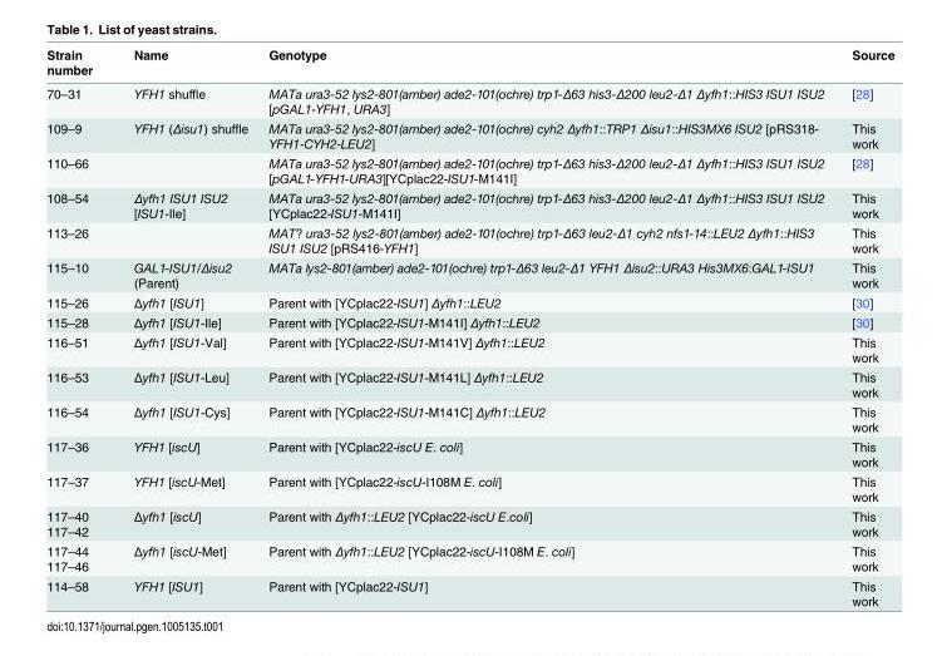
<table><thead><tr><td>Strain number</td><td>Name</td><td>Genotype</td><td>Source</td></tr></thead><tbody><tr><td>70–31</td><td>YFH1 shuffle</td><td>MATa ura3-52 lys2-801(amber) ade2-101(ochre) trp1-Δ63 his3-Δ200 leu2-Δ1 Δyfh1::HIS3 ISU1 ISU2 [pGAL1-YFH1, URA3]</td><td>[28]</td></tr><tr><td>109–9</td><td>YFH1 (Δisu1) shuffle</td><td>MATa ura3-52 lys2-801(amber) ade2-101(ochre) cyh2 Δyfh1::TRP1 Δisu1::HIS3MX6 ISU2 [pRS318- YFH1-CYH2-LEU2]</td><td>This work</td></tr><tr><td>110–66</td><td></td><td>MATa ura3-52 lys2-801(amber) ade2-101(ochre) trp1-Δ63 his3-Δ200 leu2-Δ1 Δyfh1::HIS3 ISU1 ISU2 [pGAL1-YFH1-URA3][YCplac22-ISU1-M141I]</td><td>[28]</td></tr><tr><td>108–54</td><td>Δyfh1 ISU1 ISU2 [ISU1-Ile]</td><td>MATa ura3-52 lys2-801(amber) ade2-101(ochre) trp1-Δ63 his3-Δ200 leu2-Δ1 Δyfh1::HIS3 ISU1 ISU2 [YCplac22-ISU1-M141I]</td><td>This work</td></tr><tr><td>113–26</td><td></td><td>MAT? ura3-52 lys2-801(amber) ade2-101(ochre) trp1-Δ63 leu2-Δ1 cyh2 nfs1-14::LEU2 Δyfh1::HIS3 ISU1 ISU2 [pRS416-YFH1]</td><td>This work</td></tr><tr><td>115–10</td><td>GAL1-ISU1/Δisu2 (Parent)</td><td>MATa lys2-801(amber) ade2-101(ochre) trp1-Δ63 leu2-Δ1 YFH1 Δisu2::URA3 His3MX6:GAL1-ISU1</td><td>This work</td></tr><tr><td>115–26</td><td>Δyfh1 [ISU1]</td><td>Parent with [YCplac22-ISU1] Δyfh1::LEU2</td><td>[30]</td></tr><tr><td>115–28</td><td>Δyfh1 [ISU1-Ile]</td><td>Parent with [YCplac22-ISU1-M141I] Δyfh1::LEU2</td><td>[30]</td></tr><tr><td>116–51</td><td>Δyfh1 [ISU1-Val]</td><td>Parent with [YCplac22-ISU1-M141V] Δyfh1::LEU2</td><td>This work</td></tr><tr><td>116–53</td><td>Δyfh1 [ISU1-Leu]</td><td>Parent with [YCplac22-ISU1-M141L] Δyfh1::LEU2</td><td>This work</td></tr><tr><td>116–54</td><td>Δyfh1 [ISU1-Cys]</td><td>Parent with [YCplac22-ISU1-M141C] Δyfh1::LEU2</td><td>This work</td></tr><tr><td>117–36</td><td>YFH1 [iscU]</td><td>Parent with [YCplac22-iscU E. coli]</td><td>This work</td></tr><tr><td>117–37</td><td>YFH1 [iscU-Met]</td><td>Parent with [YCplac22-iscU-I108M E. coli]</td><td>This work</td></tr><tr><td>117–40 117–42</td><td>Δyfh1 [iscU]</td><td>Parent with Δyfh1::LEU2 [YCplac22-iscU E.coli]</td><td>This work</td></tr><tr><td>117–44 117–46</td><td>Δyfh1 [iscU-Met]</td><td>Parent with Δyfh1::LEU2 [YCplac22-iscU-I108M E. coli]</td><td>This work</td></tr><tr><td>114–58</td><td>YFH1 [ISU1]</td><td>Parent with [YCplac22-ISU1]</td><td>This work</td></tr></tbody></table>